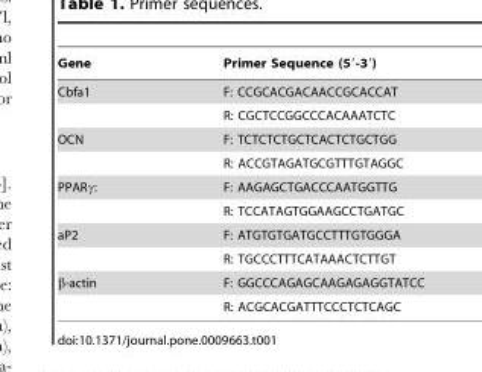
<table><thead><tr><td>Gene</td><td>Primer Sequence (5′-3′)</td></tr></thead><tbody><tr><td rowspan="2">Cbfa1</td><td>F: CCGCACGACAACCGCACCAT</td></tr><tr><td>R: CGCTCCGGCCCACAAATCTC</td></tr><tr><td rowspan="2">OCN</td><td>F: TCTCTCTGCTCACTCTGCTGG</td></tr><tr><td>R: ACCGTAGATGCGTTTGTAGGC</td></tr><tr><td rowspan="2">PPARγ:</td><td>F: AAGAGCTGACCCAATGGTTG</td></tr><tr><td>R: TCCATAGTGGAAGCCTGATGC</td></tr><tr><td rowspan="2">aP2</td><td>F: ATGTGTGATGCCTTTGTGGGA</td></tr><tr><td>R: TGCCCTTTCATAAACTCTTGT</td></tr><tr><td rowspan="2">β-actin</td><td>F: GGCCCAGAGCAAGAGAGGTATCC</td></tr><tr><td>R: ACGCACGATTTCCCTCTCAGC</td></tr></tbody></table>